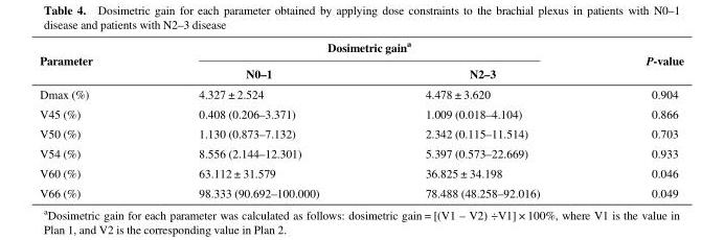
<table><thead><tr><td rowspan="2">Parameter</td><td colspan="2">Dosimetric gain<sup>a</sup></td><td rowspan="2">P-value</td></tr><tr><td>N0–1</td><td>N2–3</td></tr></thead><tbody><tr><td>Dmax (%)</td><td>4.327 ± 2.524</td><td>4.478 ± 3.620</td><td>0.904</td></tr><tr><td>V45 (%)</td><td>0.408 (0.206–3.371)</td><td>1.009 (0.018–4.104)</td><td>0.866</td></tr><tr><td>V50 (%)</td><td>1.130 (0.873–7.132)</td><td>2.342 (0.115–11.514)</td><td>0.703</td></tr><tr><td>V54 (%)</td><td>8.556 (2.144–12.301)</td><td>5.397 (0.573–22.669)</td><td>0.933</td></tr><tr><td>V60 (%)</td><td>63.112 ± 31.579</td><td>36.825 ± 34.198</td><td>0.046</td></tr><tr><td>V66 (%)</td><td>98.333 (90.692–100.000)</td><td>78.488 (48.258–92.016)</td><td>0.049</td></tr></tbody></table>